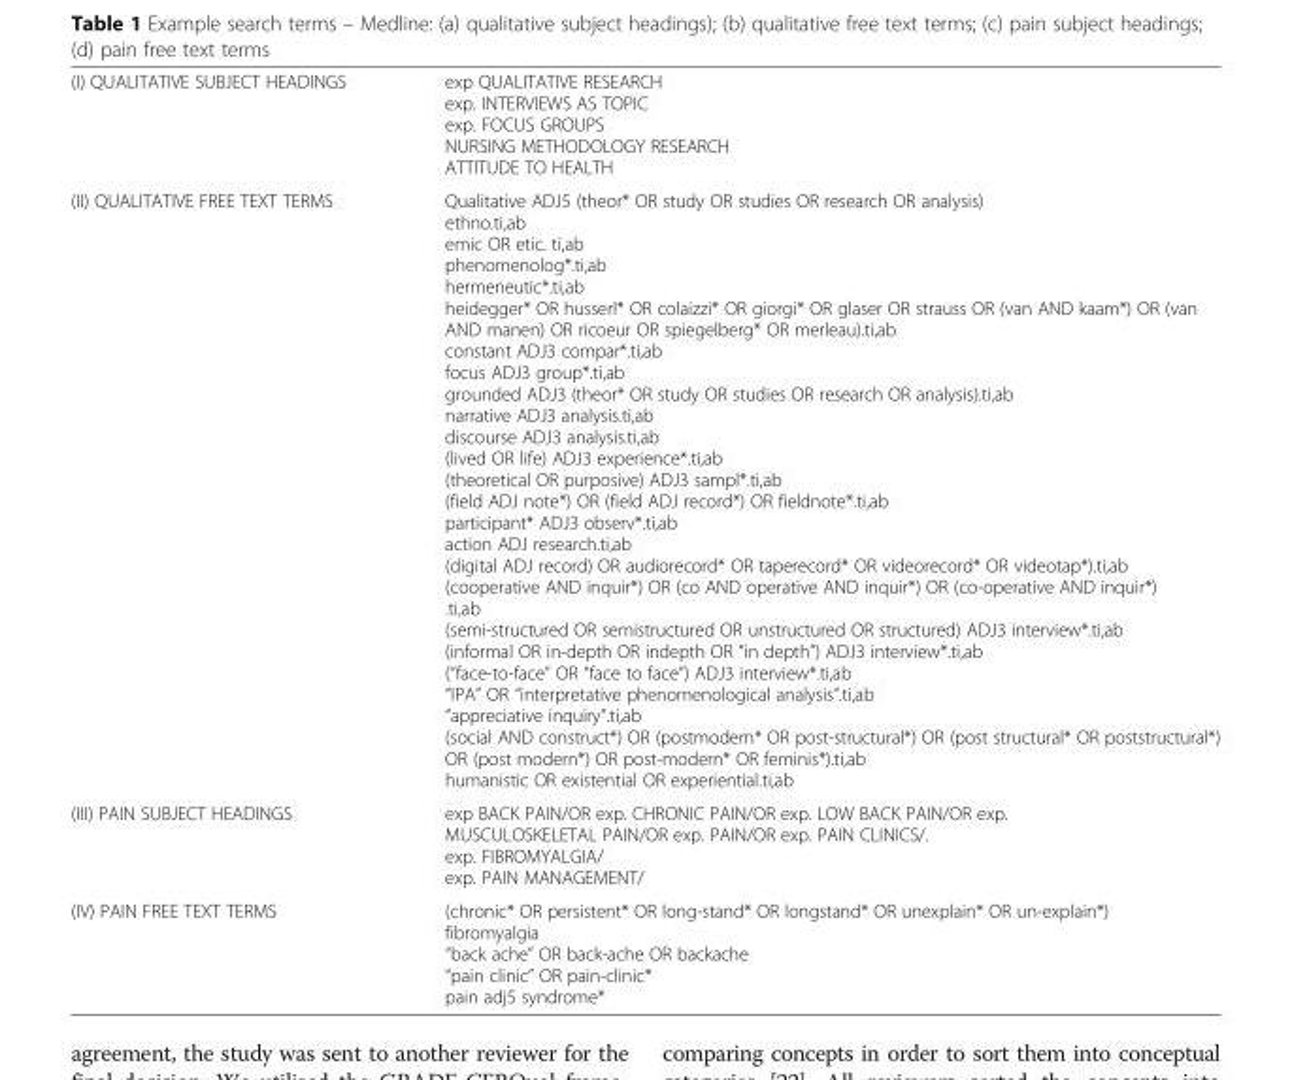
<table><tbody><tr><td>(I) QUALITATIVE SUBJECT HEADINGS</td><td>exp QUALITATIVE RESEARCH exp. INTERVIEWS AS TOPIC exp. FOCUS GROUPS NURSING METHODOLOGY RESEARCH ATTITUDE TO HEALTH</td></tr><tr><td>(II) QUALITATIVE FREE TEXT TERMS</td><td>Qualitative ADJ5 (theor* OR study OR studies OR research OR analysis) ethno.ti,ab emic OR etic. ti,ab phenomenolog*.ti,ab hermeneutic*.ti,ab heidegger* OR husserl* OR colaizzi* OR giorgi* OR glaser OR strauss OR (van AND kaam*) OR (van AND manen) OR ricoeur OR spiegelberg* OR merleau).ti,ab constant ADJ3 compar*.ti,ab focus ADJ3 group*.ti,ab grounded ADJ3 (theor* OR study OR studies OR research OR analysis).ti,ab narrative ADJ3 analysis.ti,ab discourse ADJ3 analysis.ti,ab (lived OR life) ADJ3 experience*.ti,ab (theoretical OR purposive) ADJ3 sampl*.ti,ab (field ADJ note*) OR (field ADJ record*) OR fieldnote*.ti,ab participant* ADJ3 observ*.ti,ab action ADJ research.ti,ab (digital ADJ record) OR audiorecord* OR taperecord* OR videorecord* OR videotap*).ti,ab (cooperative AND inquir*) OR (co AND operative AND inquir*) OR (co-operative AND inquir*) .ti,ab (semi-structured OR semistructured OR unstructured OR structured) ADJ3 interview*.ti,ab (informal OR in-depth OR indepth OR “in depth”) ADJ3 interview*.ti,ab (“face-to-face” OR “face to face”) ADJ3 interview*.ti,ab “IPA” OR “interpretative phenomenological analysis”.ti,ab “appreciative inquiry”.ti,ab (social AND construct*) OR (postmodern* OR post-structural*) OR (post structural* OR poststructural*) OR (post modern*) OR post-modern* OR feminis*).ti,ab humanistic OR existential OR experiential.ti,ab</td></tr><tr><td>(III) PAIN SUBJECT HEADINGS</td><td>exp BACK PAIN/OR exp. CHRONIC PAIN/OR exp. LOW BACK PAIN/OR exp. MUSCULOSKELETAL PAIN/OR exp. PAIN/OR exp. PAIN CLINICS/. exp. FIBROMYALGIA/ exp. PAIN MANAGEMENT/</td></tr><tr><td>(IV) PAIN FREE TEXT TERMS</td><td>(chronic* OR persistent* OR long-stand* OR longstand* OR unexplain* OR un-explain*) fibromyalgia “back ache” OR back-ache OR backache “pain clinic” OR pain-clinic* pain adj5 syndrome*</td></tr></tbody></table>